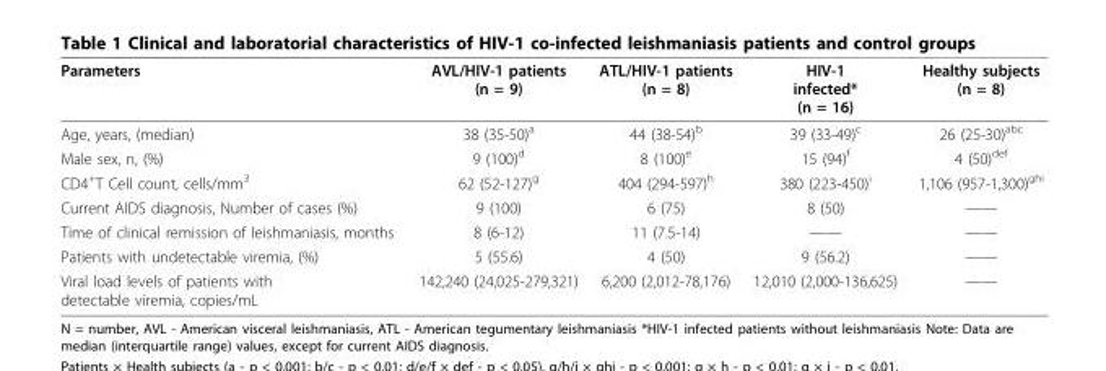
<table><thead><tr><td>Parameters</td><td>AVL/HIV-1 patients (n = 9)</td><td>ATL/HIV-1 patients (n = 8)</td><td>HIV-1 infected* (n = 16)</td><td>Healthy subjects (n = 8)</td></tr></thead><tbody><tr><td>Age, years, (median)</td><td>38 (35-50)<sup>a</sup></td><td>44 (38-54)<sup>b</sup></td><td>39 (33-49)<sup>c</sup></td><td>26 (25-30)<sup>abc</sup></td></tr><tr><td>Male sex, n, (%)</td><td>9 (100)<sup>d</sup></td><td>8 (100)<sup>e</sup></td><td>15 (94)<sup>f</sup></td><td>4 (50)<sup>def</sup></td></tr><tr><td>CD4<sup>+</sup>T Cell count, cells/mm<sup>3</sup></td><td>62 (52-127)<sup>g</sup></td><td>404 (294-597)<sup>h</sup></td><td>380 (223-450)<sup>i</sup></td><td>1,106 (957-1,300)<sup>ghi</sup></td></tr><tr><td>Current AIDS diagnosis, Number of cases (%)</td><td>9 (100)</td><td>6 (75)</td><td>8 (50)</td><td>——</td></tr><tr><td>Time of clinical remission of leishmaniasis, months</td><td>8 (6-12)</td><td>11 (7.5-14)</td><td>——</td><td>——</td></tr><tr><td>Patients with undetectable viremia, (%)</td><td>5 (55.6)</td><td>4 (50)</td><td>9 (56.2)</td><td>——</td></tr><tr><td>Viral load levels of patients with detectable viremia, copies/mL</td><td>142,240 (24,025-279,321)</td><td>6,200 (2,012-78,176)</td><td>12,010 (2,000-136,625)</td><td>——</td></tr></tbody></table>